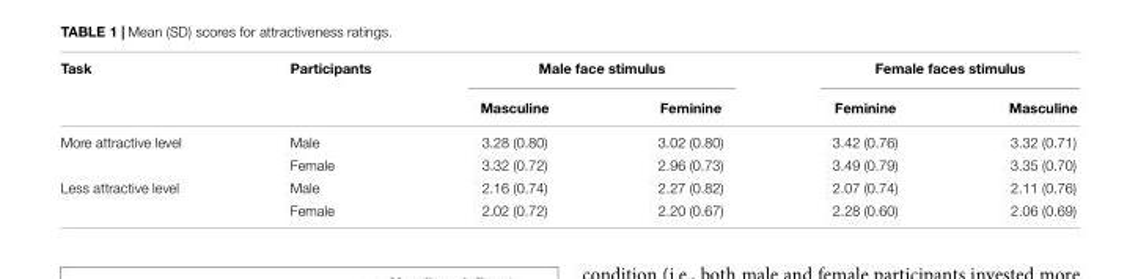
<table><thead><tr><td rowspan="2">Task</td><td rowspan="2">Participants</td><td colspan="2">Male face stimulus</td><td colspan="2">Female faces stimulus</td></tr><tr><td>Masculine</td><td>Feminine</td><td>Feminine</td><td>Masculine</td></tr></thead><tbody><tr><td rowspan="2">More attractive level</td><td>Male</td><td>3.28 (0.80)</td><td>3.02 (0.80)</td><td>3.42 (0.76)</td><td>3.32 (0.71)</td></tr><tr><td>Female</td><td>3.32 (0.72)</td><td>2.96 (0.73)</td><td>3.49 (0.79)</td><td>3.35 (0.70)</td></tr><tr><td rowspan="2">Less attractive level</td><td>Male</td><td>2.16 (0.74)</td><td>2.27 (0.82)</td><td>2.07 (0.74)</td><td>2.11 (0.76)</td></tr><tr><td>Female</td><td>2.02 (0.72)</td><td>2.20 (0.67)</td><td>2.28 (0.60)</td><td>2.06 (0.69)</td></tr></tbody></table>